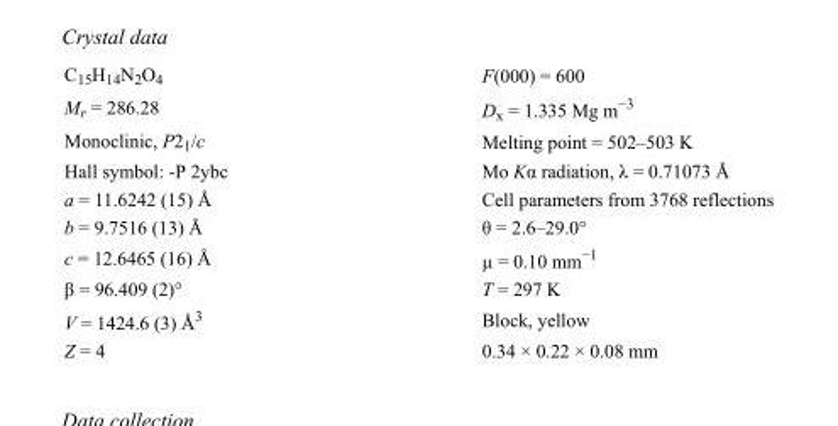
<table><tbody><tr><td>C<sub>15</sub>H<sub>14</sub>N<sub>2</sub>O<sub>4</sub></td><td>F(000) = 600</td></tr><tr><td>M<sub>r</sub> = 286.28</td><td>D<sub>x</sub> = 1.335 Mg m<sup>−3</sup></td></tr><tr><td>Monoclinic, P2<sub>1</sub>/c</td><td>Melting point = 502–503 K</td></tr><tr><td>Hall symbol: -P 2ybc</td><td>Mo Kα radiation, λ = 0.71073 Å</td></tr><tr><td>a = 11.6242 (15) Å</td><td>Cell parameters from 3768 reflections</td></tr><tr><td>b = 9.7516 (13) Å</td><td>θ = 2.6–29.0°</td></tr><tr><td>c = 12.6465 (16) Å</td><td>µ = 0.10 mm<sup>−1</sup></td></tr><tr><td>β = 96.409 (2)°</td><td>T = 297 K</td></tr><tr><td>V = 1424.6 (3) Å<sup>3</sup></td><td>Block, yellow</td></tr><tr><td>Z = 4</td><td>0.34 × 0.22 × 0.08 mm</td></tr></tbody></table>